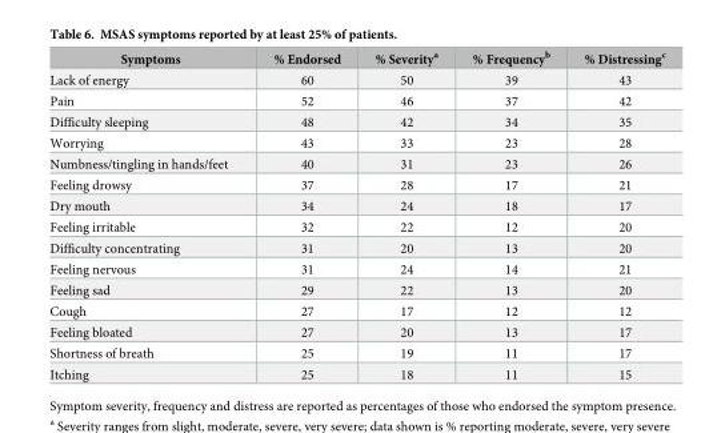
<table><thead><tr><td>Symptoms</td><td>% Endorsed</td><td>% Severity<sup>a</sup></td><td>% Frequency<sup>b</sup></td><td>% Distressing<sup>c</sup></td></tr></thead><tbody><tr><td>Lack of energy</td><td>60</td><td>50</td><td>39</td><td>43</td></tr><tr><td>Pain</td><td>52</td><td>46</td><td>37</td><td>42</td></tr><tr><td>Difficulty sleeping</td><td>48</td><td>42</td><td>34</td><td>35</td></tr><tr><td>Worrying</td><td>43</td><td>33</td><td>23</td><td>28</td></tr><tr><td>Numbness/tingling in hands/feet</td><td>40</td><td>31</td><td>23</td><td>26</td></tr><tr><td>Feeling drowsy</td><td>37</td><td>28</td><td>17</td><td>21</td></tr><tr><td>Dry mouth</td><td>34</td><td>24</td><td>18</td><td>17</td></tr><tr><td>Feeling irritable</td><td>32</td><td>22</td><td>12</td><td>20</td></tr><tr><td>Difficulty concentrating</td><td>31</td><td>20</td><td>13</td><td>20</td></tr><tr><td>Feeling nervous</td><td>31</td><td>24</td><td>14</td><td>21</td></tr><tr><td>Feeling sad</td><td>29</td><td>22</td><td>13</td><td>20</td></tr><tr><td>Cough</td><td>27</td><td>17</td><td>12</td><td>12</td></tr><tr><td>Feeling bloated</td><td>27</td><td>20</td><td>13</td><td>17</td></tr><tr><td>Shortness of breath</td><td>25</td><td>19</td><td>11</td><td>17</td></tr><tr><td>Itching</td><td>25</td><td>18</td><td>11</td><td>15</td></tr></tbody></table>